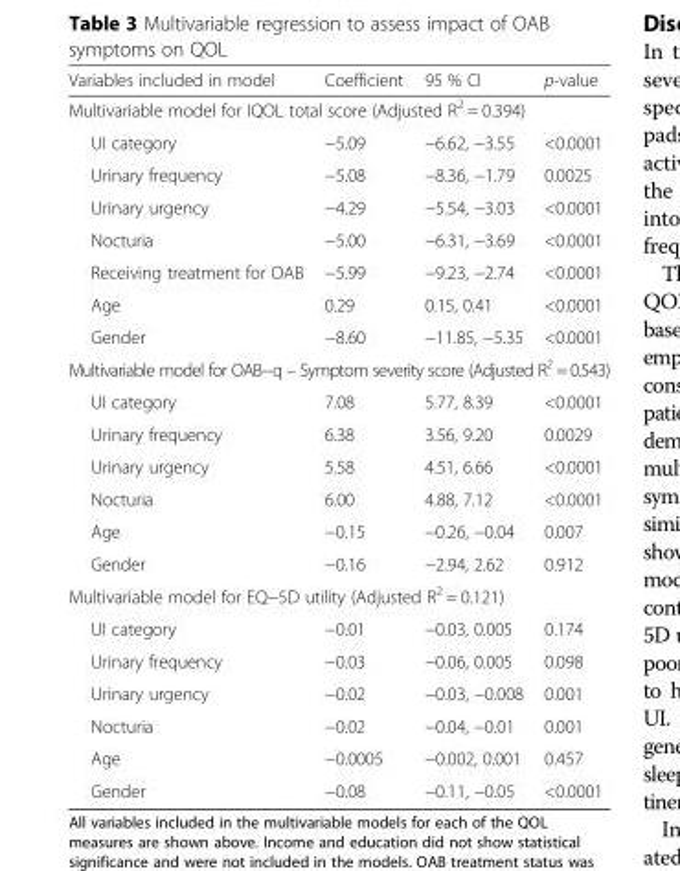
<table><thead><tr><td>Variables included in model</td><td>Coefficient</td><td>95 % CI</td><td>p-value</td></tr></thead><tbody><tr><td colspan="4">Multivariable model for IQOL total score (Adjusted R<sup>2</sup> = 0.394)</td></tr><tr><td>UI category</td><td>−5.09</td><td>−6.62, −3.55</td><td>&lt;0.0001</td></tr><tr><td>Urinary frequency</td><td>−5.08</td><td>−8.36, −1.79</td><td>0.0025</td></tr><tr><td>Urinary urgency</td><td>−4.29</td><td>−5.54, −3.03</td><td>&lt;0.0001</td></tr><tr><td>Nocturia</td><td>−5.00</td><td>−6.31, −3.69</td><td>&lt;0.0001</td></tr><tr><td>Receiving treatment for OAB</td><td>−5.99</td><td>−9.23, −2.74</td><td>&lt;0.0001</td></tr><tr><td>Age</td><td>0.29</td><td>0.15, 0.41</td><td>&lt;0.0001</td></tr><tr><td>Gender</td><td>−8.60</td><td>−11.85, −5.35</td><td>&lt;0.0001</td></tr><tr><td colspan="4">Multivariable model for OAB−q – Symptom severity score (Adjusted R<sup>2</sup> = 0.543)</td></tr><tr><td>UI category</td><td>7.08</td><td>5.77, 8.39</td><td>&lt;0.0001</td></tr><tr><td>Urinary frequency</td><td>6.38</td><td>3.56, 9.20</td><td>0.0029</td></tr><tr><td>Urinary urgency</td><td>5.58</td><td>4.51, 6.66</td><td>&lt;0.0001</td></tr><tr><td>Nocturia</td><td>6.00</td><td>4.88, 7.12</td><td>&lt;0.0001</td></tr><tr><td>Age</td><td>−0.15</td><td>−0.26, −0.04</td><td>0.007</td></tr><tr><td>Gender</td><td>−0.16</td><td>−2.94, 2.62</td><td>0.912</td></tr><tr><td colspan="4">Multivariable model for EQ−5D utility (Adjusted R<sup>2</sup> = 0.121)</td></tr><tr><td>UI category</td><td>−0.01</td><td>−0.03, 0.005</td><td>0.174</td></tr><tr><td>Urinary frequency</td><td>−0.03</td><td>−0.06, 0.005</td><td>0.098</td></tr><tr><td>Urinary urgency</td><td>−0.02</td><td>−0.03, −0.008</td><td>0.001</td></tr><tr><td>Nocturia</td><td>−0.02</td><td>−0.04, −0.01</td><td>0.001</td></tr><tr><td>Age</td><td>−0.0005</td><td>−0.002, 0.001</td><td>0.457</td></tr><tr><td>Gender</td><td>−0.08</td><td>−0.11, −0.05</td><td>&lt;0.0001</td></tr></tbody></table>